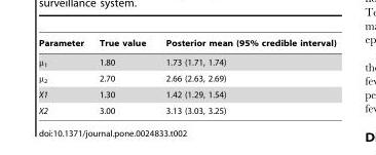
<table><thead><tr><td>Parameter</td><td>True value</td><td>Posterior mean (95% credible interval)</td></tr></thead><tbody><tr><td>μ<sub>1</sub></td><td>1.80</td><td>1.73 (1.71, 1.74)</td></tr><tr><td>μ<sub>2</sub></td><td>2.70</td><td>2.66 (2.63, 2.69)</td></tr><tr><td>X1</td><td>1.30</td><td>1.42 (1.29, 1.54)</td></tr><tr><td>X2</td><td>3.00</td><td>3.13 (3.03, 3.25)</td></tr></tbody></table>